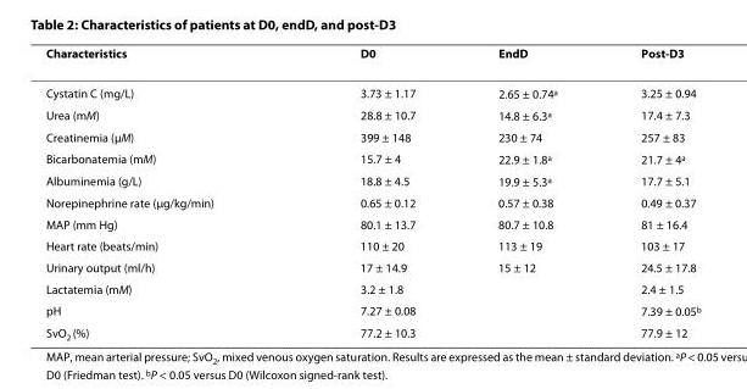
<table><thead><tr><td>Characteristics</td><td>D0</td><td>EndD</td><td>Post-D3</td></tr></thead><tbody><tr><td>Cystatin C (mg/L)</td><td>3.73 ± 1.17</td><td>2.65 ± 0.74<sup>a</sup></td><td>3.25 ± 0.94</td></tr><tr><td>Urea (mM)</td><td>28.8 ± 10.7</td><td>14.8 ± 6.3<sup>a</sup></td><td>17.4 ± 7.3</td></tr><tr><td>Creatinemia (μM)</td><td>399 ± 148</td><td>230 ± 74</td><td>257 ± 83</td></tr><tr><td>Bicarbonatemia (mM)</td><td>15.7 ± 4</td><td>22.9 ± 1.8<sup>a</sup></td><td>21.7 ± 4<sup>a</sup></td></tr><tr><td>Albuminemia (g/L)</td><td>18.8 ± 4.5</td><td>19.9 ± 5.3<sup>a</sup></td><td>17.7 ± 5.1</td></tr><tr><td>Norepinephrine rate (μg/kg/min)</td><td>0.65 ± 0.12</td><td>0.57 ± 0.38</td><td>0.49 ± 0.37</td></tr><tr><td>MAP (mm Hg)</td><td>80.1 ± 13.7</td><td>80.7 ± 10.8</td><td>81 ± 16.4</td></tr><tr><td>Heart rate (beats/min)</td><td>110 ± 20</td><td>113 ± 19</td><td>103 ± 17</td></tr><tr><td>Urinary output (ml/h)</td><td>17 ± 14.9</td><td>15 ± 12</td><td>24.5 ± 17.8</td></tr><tr><td>Lactatemia (mM)</td><td>3.2 ± 1.8</td><td></td><td>2.4 ± 1.5</td></tr><tr><td>pH</td><td>7.27 ± 0.08</td><td></td><td>7.39 ± 0.05<sup>b</sup></td></tr><tr><td>SvO<sub>2</sub> (%)</td><td>77.2 ± 10.3</td><td></td><td>77.9 ± 12</td></tr></tbody></table>